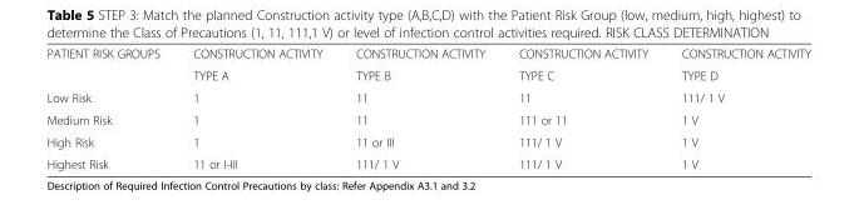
<table><tbody><tr><td rowspan="2">PATIENT RISK GROUPS</td><td>CONSTRUCTION ACTIVITY</td><td>CONSTRUCTION ACTIVITY</td><td>CONSTRUCTION ACTIVITY</td><td>CONSTRUCTION ACTIVITY</td></tr><tr><td>TYPE A</td><td>TYPE B</td><td>TYPE C</td><td>TYPE D</td></tr><tr><td>Low Risk</td><td>1</td><td>11</td><td>11</td><td>111/ 1 V</td></tr><tr><td>Medium Risk</td><td>1</td><td>11</td><td>111 or 11</td><td>1 V</td></tr><tr><td>High Risk</td><td>1</td><td>11 or III</td><td>111/ 1 V</td><td>1 V</td></tr><tr><td>Highest Risk</td><td>11 or I-III</td><td>111/ 1 V</td><td>111/ 1 V</td><td>1 V</td></tr></tbody></table>